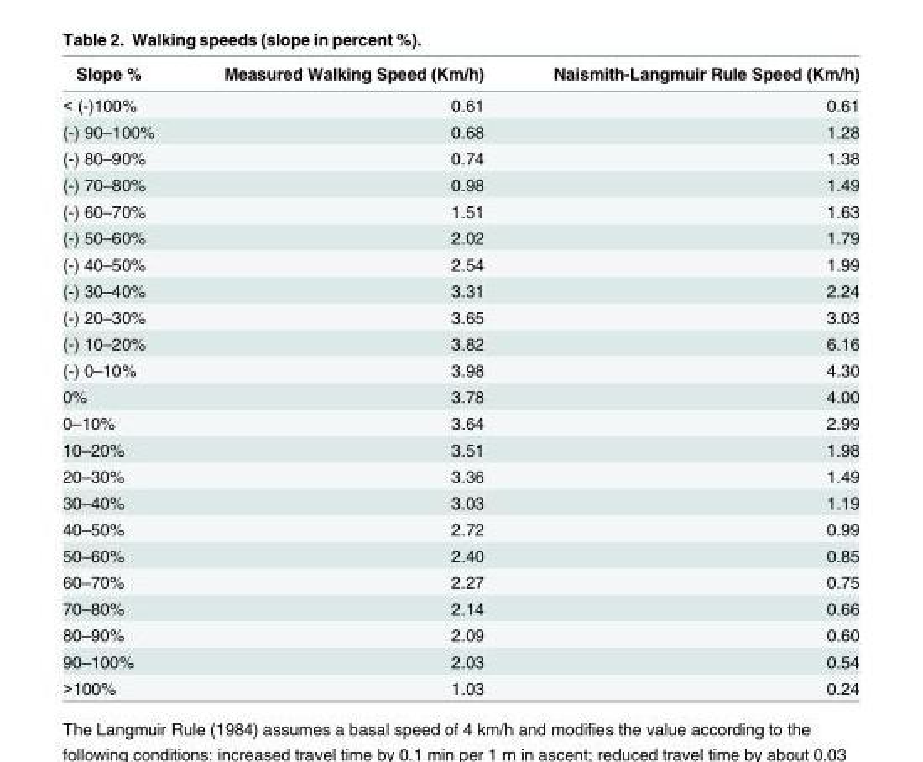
<table><thead><tr><td>Slope %</td><td>Measured Walking Speed (Km/h)</td><td>Naismith-Langmuir Rule Speed (Km/h)</td></tr></thead><tbody><tr><td>&lt; (-)100%</td><td>0.61</td><td>0.61</td></tr><tr><td>(-) 90–100%</td><td>0.68</td><td>1.28</td></tr><tr><td>(-) 80–90%</td><td>0.74</td><td>1.38</td></tr><tr><td>(-) 70–80%</td><td>0.98</td><td>1.49</td></tr><tr><td>(-) 60–70%</td><td>1.51</td><td>1.63</td></tr><tr><td>(-) 50–60%</td><td>2.02</td><td>1.79</td></tr><tr><td>(-) 40–50%</td><td>2.54</td><td>1.99</td></tr><tr><td>(-) 30–40%</td><td>3.31</td><td>2.24</td></tr><tr><td>(-) 20–30%</td><td>3.65</td><td>3.03</td></tr><tr><td>(-) 10–20%</td><td>3.82</td><td>6.16</td></tr><tr><td>(-) 0–10%</td><td>3.98</td><td>4.30</td></tr><tr><td>0%</td><td>3.78</td><td>4.00</td></tr><tr><td>0–10%</td><td>3.64</td><td>2.99</td></tr><tr><td>10–20%</td><td>3.51</td><td>1.98</td></tr><tr><td>20–30%</td><td>3.36</td><td>1.49</td></tr><tr><td>30–40%</td><td>3.03</td><td>1.19</td></tr><tr><td>40–50%</td><td>2.72</td><td>0.99</td></tr><tr><td>50–60%</td><td>2.40</td><td>0.85</td></tr><tr><td>60–70%</td><td>2.27</td><td>0.75</td></tr><tr><td>70–80%</td><td>2.14</td><td>0.66</td></tr><tr><td>80–90%</td><td>2.09</td><td>0.60</td></tr><tr><td>90–100%</td><td>2.03</td><td>0.54</td></tr><tr><td>&gt;100%</td><td>1.03</td><td>0.24</td></tr></tbody></table>